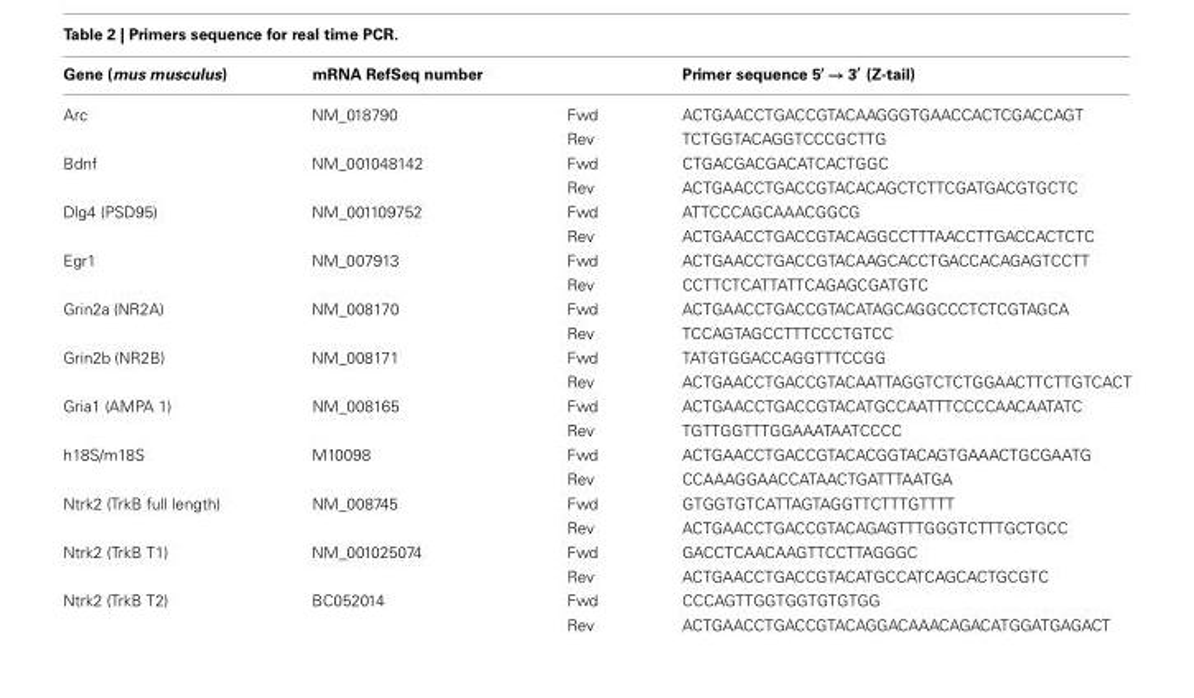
<table><thead><tr><td>Gene (mus musculus)</td><td>mRNA RefSeq number</td><td></td><td>Primer sequence 5′ → 3′ (Z-tail)</td></tr></thead><tbody><tr><td rowspan="2">Arc</td><td>NM_018790</td><td>Fwd</td><td>ACTGAACCTGACCGTACAAGGGTGAACCACTCGACCAGT</td></tr><tr><td></td><td>Rev</td><td>TCTGGTACAGGTCCCGCTTG</td></tr><tr><td rowspan="2">Bdnf</td><td>NM_001048142</td><td>Fwd</td><td>CTGACGACGACATCACTGGC</td></tr><tr><td></td><td>Rev</td><td>ACTGAACCTGACCGTACACAGCTCTTCGATGACGTGCTC</td></tr><tr><td rowspan="2">Dlg4 (PSD95)</td><td>NM_001109752</td><td>Fwd</td><td>ATTCCCAGCAAACGGCG</td></tr><tr><td></td><td>Rev</td><td>ACTGAACCTGACCGTACAGGCCTTTAACCTTGACCACTCTC</td></tr><tr><td rowspan="2">Egr1</td><td>NM_007913</td><td>Fwd</td><td>ACTGAACCTGACCGTACAAGCACCTGACCACAGAGTCCTT</td></tr><tr><td></td><td>Rev</td><td>CCTTCTCATTATTCAGAGCGATGTC</td></tr><tr><td rowspan="2">Grin2a (NR2A)</td><td>NM_008170</td><td>Fwd</td><td>ACTGAACCTGACCGTACATAGCAGGCCCTCTCGTAGCA</td></tr><tr><td></td><td>Rev</td><td>TCCAGTAGCCTTTCCCTGTCC</td></tr><tr><td rowspan="2">Grin2b (NR2B)</td><td>NM_008171</td><td>Fwd</td><td>TATGTGGACCAGGTTTCCGG</td></tr><tr><td></td><td>Rev</td><td>ACTGAACCTGACCGTACAATTAGGTCTCTGGAACTTCTTGTCACT</td></tr><tr><td rowspan="2">Gria1 (AMPA 1)</td><td>NM_008165</td><td>Fwd</td><td>ACTGAACCTGACCGTACATGCCAATTTCCCCAACAATATC</td></tr><tr><td></td><td>Rev</td><td>TGTTGGTTTGGAAATAATCCCC</td></tr><tr><td rowspan="2">h18S/m18S</td><td>M10098</td><td>Fwd</td><td>ACTGAACCTGACCGTACACGGTACAGTGAAACTGCGAATG</td></tr><tr><td></td><td>Rev</td><td>CCAAAGGAACCATAACTGATTTAATGA</td></tr><tr><td rowspan="2">Ntrk2 (TrkB full length)</td><td>NM_008745</td><td>Fwd</td><td>GTGGTGTCATTAGTAGGTTCTTTGTTTT</td></tr><tr><td></td><td>Rev</td><td>ACTGAACCTGACCGTACAGAGTTTGGGTCTTTGCTGCC</td></tr><tr><td rowspan="2">Ntrk2 (TrkB T1)</td><td>NM_001025074</td><td>Fwd</td><td>GACCTCAACAAGTTCCTTAGGGC</td></tr><tr><td></td><td>Rev</td><td>ACTGAACCTGACCGTACATGCCATCAGCACTGCGTC</td></tr><tr><td rowspan="2">Ntrk2 (TrkB T2)</td><td>BC052014</td><td>Fwd</td><td>CCCAGTTGGTGGTGTGTGG</td></tr><tr><td></td><td>Rev</td><td>ACTGAACCTGACCGTACAGGACAAACAGACATGGATGAGACT</td></tr></tbody></table>